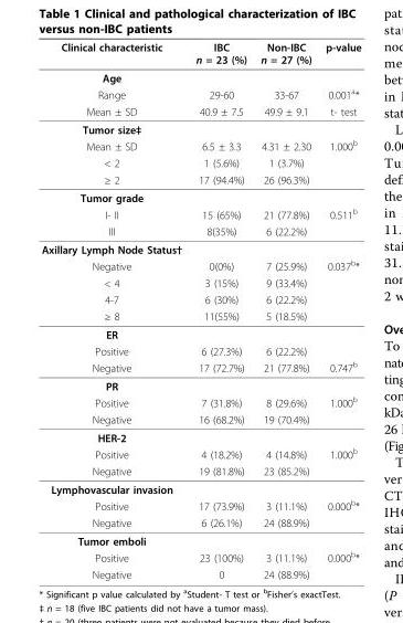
<table><thead><tr><td>Clinical characteristic</td><td>IBC n = 23 (%)</td><td>Non-IBC n = 27 (%)</td><td>p-value</td></tr></thead><tbody><tr><td colspan="4">Age</td></tr><tr><td>Range</td><td>29-60</td><td>33-67</td><td>0.001<sup>a</sup>*</td></tr><tr><td>Mean ± SD</td><td>40.9 ± 7.5</td><td>49.9 ± 9.1</td><td>t- test</td></tr><tr><td colspan="4">Tumor size‡</td></tr><tr><td>Mean ± SD</td><td>6.5 ± 3.3</td><td>4.31 ± 2.30</td><td>1.000<sup>b</sup></td></tr><tr><td>&lt; 2</td><td>1 (5.6%)</td><td>1 (3.7%)</td><td></td></tr><tr><td>≥ 2</td><td>17 (94.4%)</td><td>26 (96.3%)</td><td></td></tr><tr><td colspan="4">Tumor grade</td></tr><tr><td>I- II</td><td>15 (65%)</td><td>21 (77.8%)</td><td>0.511<sup>b</sup></td></tr><tr><td>III</td><td>8(35%)</td><td>6 (22.2%)</td><td></td></tr><tr><td colspan="4">Axillary Lymph Node Status†</td></tr><tr><td>Negative</td><td>0(0%)</td><td>7 (25.9%)</td><td>0.037<sup>b</sup>*</td></tr><tr><td>&lt; 4</td><td>3 (15%)</td><td>9 (33.4%)</td><td></td></tr><tr><td>4-7</td><td>6 (30%)</td><td>6 (22.2%)</td><td></td></tr><tr><td>≥ 8</td><td>11(55%)</td><td>5 (18.5%)</td><td></td></tr><tr><td colspan="4">ER</td></tr><tr><td>Positive</td><td>6 (27.3%)</td><td>6 (22.2%)</td><td></td></tr><tr><td>Negative</td><td>17 (72.7%)</td><td>21 (77.8%)</td><td>0.747<sup>b</sup></td></tr><tr><td colspan="4">PR</td></tr><tr><td>Positive</td><td>7 (31.8%)</td><td>8 (29.6%)</td><td>1.000<sup>b</sup></td></tr><tr><td>Negative</td><td>16 (68.2%)</td><td>19 (70.4%)</td><td></td></tr><tr><td colspan="4">HER-2</td></tr><tr><td>Positive</td><td>4 (18.2%)</td><td>4 (14.8%)</td><td>1.000<sup>b</sup></td></tr><tr><td>Negative</td><td>19 (81.8%)</td><td>23 (85.2%)</td><td></td></tr><tr><td colspan="4">Lymphovascular invasion</td></tr><tr><td>Positive</td><td>17 (73.9%)</td><td>3 (11.1%)</td><td>0.000<sup>b</sup>*</td></tr><tr><td>Negative</td><td>6 (26.1%)</td><td>24 (88.9%)</td><td></td></tr><tr><td colspan="4">Tumor emboli</td></tr><tr><td>Positive</td><td>23 (100%)</td><td>3 (11.1%)</td><td>0.000<sup>b</sup>*</td></tr><tr><td>Negative</td><td>0</td><td>24 (88.9%)</td><td></td></tr></tbody></table>